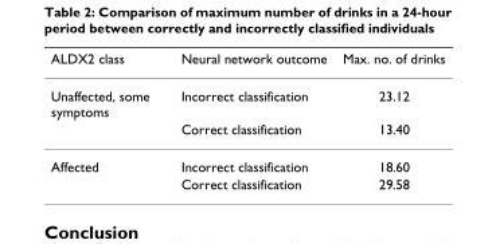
<table><thead><tr><td>ALDX2 class</td><td>Neural network outcome</td><td>Max. no. of drinks</td></tr></thead><tbody><tr><td rowspan="2">Unaffected, some symptoms</td><td>Incorrect classification</td><td>23.12</td></tr><tr><td>Correct classification</td><td>13.40</td></tr><tr><td rowspan="2">Affected</td><td>Incorrect classification</td><td>18.60</td></tr><tr><td>Correct classification</td><td>29.58</td></tr></tbody></table>